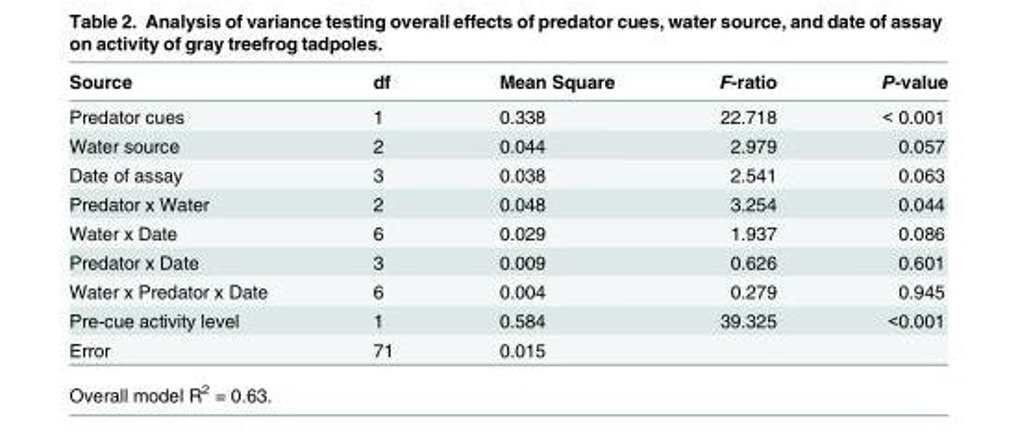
<table><thead><tr><td>Source</td><td>df</td><td>Mean Square</td><td>F-ratio</td><td>P-value</td></tr></thead><tbody><tr><td>Predator cues</td><td>1</td><td>0.338</td><td>22.718</td><td>&lt; 0.001</td></tr><tr><td>Water source</td><td>2</td><td>0.044</td><td>2.979</td><td>0.057</td></tr><tr><td>Date of assay</td><td>3</td><td>0.038</td><td>2.541</td><td>0.063</td></tr><tr><td>Predator x Water</td><td>2</td><td>0.048</td><td>3.254</td><td>0.044</td></tr><tr><td>Water x Date</td><td>6</td><td>0.029</td><td>1.937</td><td>0.086</td></tr><tr><td>Predator x Date</td><td>3</td><td>0.009</td><td>0.626</td><td>0.601</td></tr><tr><td>Water x Predator x Date</td><td>6</td><td>0.004</td><td>0.279</td><td>0.945</td></tr><tr><td>Pre-cue activity level</td><td>1</td><td>0.584</td><td>39.325</td><td>&lt;0.001</td></tr><tr><td>Error</td><td>71</td><td>0.015</td><td></td><td></td></tr></tbody></table>